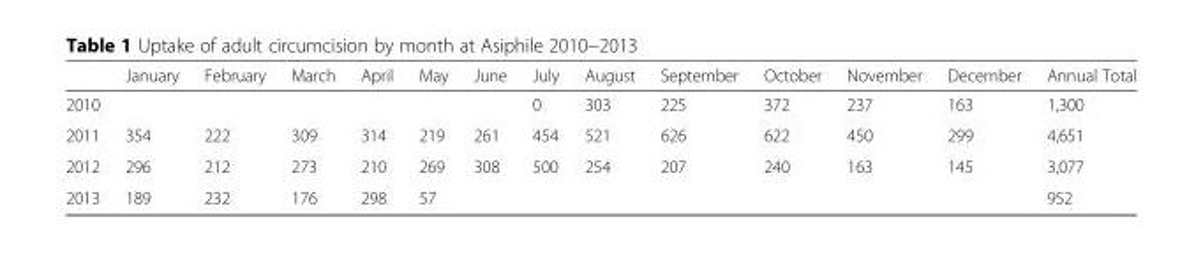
<table><thead><tr><td></td><td>January</td><td>February</td><td>March</td><td>April</td><td>May</td><td>June</td><td>July</td><td>August</td><td>September</td><td>October</td><td>November</td><td>December</td><td>Annual Total</td></tr></thead><tbody><tr><td>2010</td><td></td><td></td><td></td><td></td><td></td><td></td><td>0</td><td>303</td><td>225</td><td>372</td><td>237</td><td>163</td><td>1,300</td></tr><tr><td>2011</td><td>354</td><td>222</td><td>309</td><td>314</td><td>219</td><td>261</td><td>454</td><td>521</td><td>626</td><td>622</td><td>450</td><td>299</td><td>4,651</td></tr><tr><td>2012</td><td>296</td><td>212</td><td>273</td><td>210</td><td>269</td><td>308</td><td>500</td><td>254</td><td>207</td><td>240</td><td>163</td><td>145</td><td>3,077</td></tr><tr><td>2013</td><td>189</td><td>232</td><td>176</td><td>298</td><td>57</td><td></td><td></td><td></td><td></td><td></td><td></td><td></td><td>952</td></tr></tbody></table>